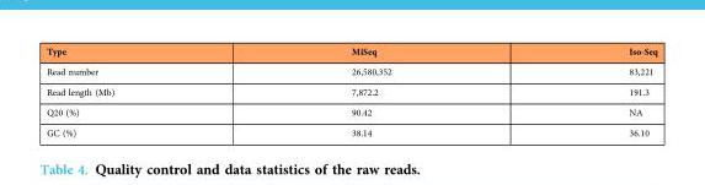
<table><thead><tr><td>Type</td><td>MiSeq</td><td>Iso-Seq</td></tr></thead><tbody><tr><td>Read number</td><td>26,580,352</td><td>83,221</td></tr><tr><td>Read length (Mb)</td><td>7,872.2</td><td>191.3</td></tr><tr><td>Q20 (%)</td><td>90.42</td><td>NA</td></tr><tr><td>GC (%)</td><td>38.14</td><td>36.10</td></tr></tbody></table>